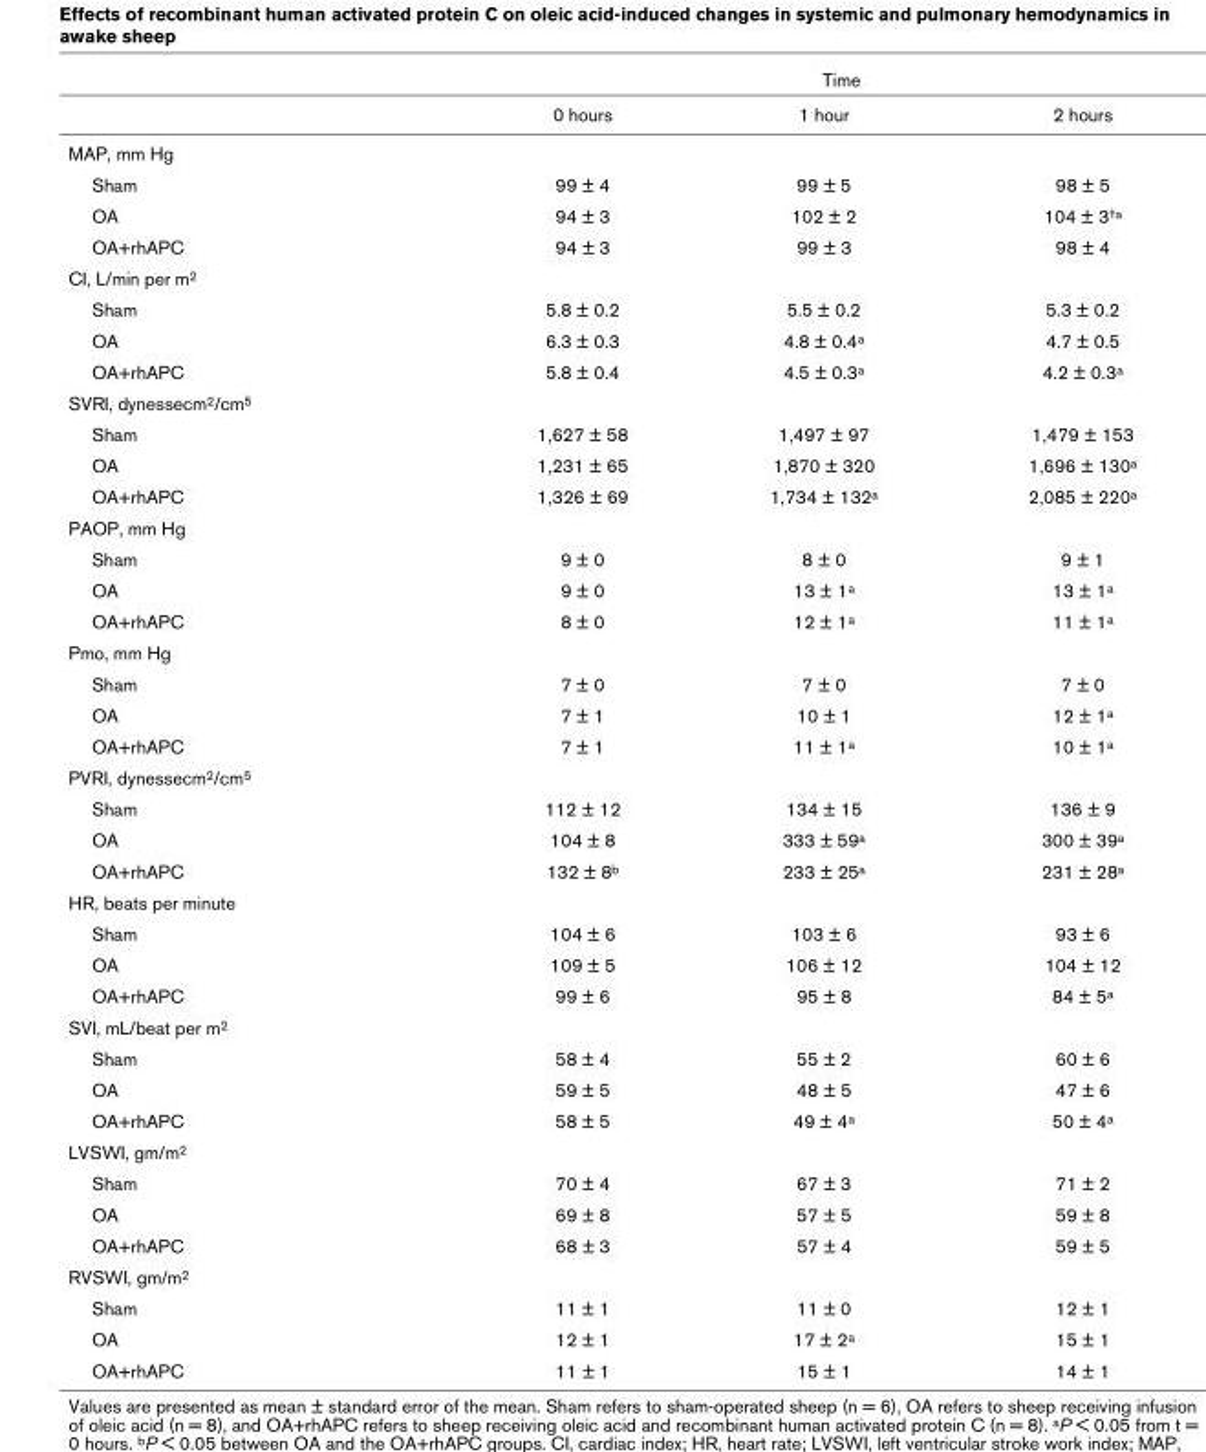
<table><thead><tr><td rowspan="2"></td><td colspan="3">Time</td></tr><tr><td>0 hours</td><td>1 hour</td><td>2 hours</td></tr></thead><tbody><tr><td colspan="4">MAP, mm Hg</td></tr><tr><td>Sham</td><td>99 ± 4</td><td>99 ± 5</td><td>98 ± 5</td></tr><tr><td>OA</td><td>94 ± 3</td><td>102 ± 2</td><td>104 ± 3<sup>†a</sup></td></tr><tr><td>OA+rhAPC</td><td>94 ± 3</td><td>99 ± 3</td><td>98 ± 4</td></tr><tr><td colspan="4">CI, L/min per m<sup>2</sup></td></tr><tr><td>Sham</td><td>5.8 ± 0.2</td><td>5.5 ± 0.2</td><td>5.3 ± 0.2</td></tr><tr><td>OA</td><td>6.3 ± 0.3</td><td>4.8 ± 0.4<sup>a</sup></td><td>4.7 ± 0.5</td></tr><tr><td>OA+rhAPC</td><td>5.8 ± 0.4</td><td>4.5 ± 0.3<sup>a</sup></td><td>4.2 ± 0.3<sup>a</sup></td></tr><tr><td colspan="4">SVRI, dynessecm<sup>2</sup>/cm<sup>5</sup></td></tr><tr><td>Sham</td><td>1,627 ± 58</td><td>1,497 ± 97</td><td>1,479 ± 153</td></tr><tr><td>OA</td><td>1,231 ± 65</td><td>1,870 ± 320</td><td>1,696 ± 130<sup>a</sup></td></tr><tr><td>OA+rhAPC</td><td>1,326 ± 69</td><td>1,734 ± 132<sup>a</sup></td><td>2,085 ± 220<sup>a</sup></td></tr><tr><td colspan="4">PAOP, mm Hg</td></tr><tr><td>Sham</td><td>9 ± 0</td><td>8 ± 0</td><td>9 ± 1</td></tr><tr><td>OA</td><td>9 ± 0</td><td>13 ± 1<sup>a</sup></td><td>13 ± 1<sup>a</sup></td></tr><tr><td>OA+rhAPC</td><td>8 ± 0</td><td>12 ± 1<sup>a</sup></td><td>11 ± 1<sup>a</sup></td></tr><tr><td colspan="4">Pmo, mm Hg</td></tr><tr><td>Sham</td><td>7 ± 0</td><td>7 ± 0</td><td>7 ± 0</td></tr><tr><td>OA</td><td>7 ± 1</td><td>10 ± 1</td><td>12 ± 1<sup>a</sup></td></tr><tr><td>OA+rhAPC</td><td>7 ± 1</td><td>11 ± 1<sup>a</sup></td><td>10 ± 1<sup>a</sup></td></tr><tr><td colspan="4">PVRI, dynessecm<sup>2</sup>/cm<sup>5</sup></td></tr><tr><td>Sham</td><td>112 ± 12</td><td>134 ± 15</td><td>136 ± 9</td></tr><tr><td>OA</td><td>104 ± 8</td><td>333 ± 59<sup>a</sup></td><td>300 ± 39<sup>a</sup></td></tr><tr><td>OA+rhAPC</td><td>132 ± 8<sup>b</sup></td><td>233 ± 25<sup>a</sup></td><td>231 ± 28<sup>a</sup></td></tr><tr><td colspan="4">HR, beats per minute</td></tr><tr><td>Sham</td><td>104 ± 6</td><td>103 ± 6</td><td>93 ± 6</td></tr><tr><td>OA</td><td>109 ± 5</td><td>106 ± 12</td><td>104 ± 12</td></tr><tr><td>OA+rhAPC</td><td>99 ± 6</td><td>95 ± 8</td><td>84 ± 5<sup>a</sup></td></tr><tr><td colspan="4">SVI, mL/beat per m<sup>2</sup></td></tr><tr><td>Sham</td><td>58 ± 4</td><td>55 ± 2</td><td>60 ± 6</td></tr><tr><td>OA</td><td>59 ± 5</td><td>48 ± 5</td><td>47 ± 6</td></tr><tr><td>OA+rhAPC</td><td>58 ± 5</td><td>49 ± 4<sup>a</sup></td><td>50 ± 4<sup>a</sup></td></tr><tr><td colspan="4">LVSWI, gm/m<sup>2</sup></td></tr><tr><td>Sham</td><td>70 ± 4</td><td>67 ± 3</td><td>71 ± 2</td></tr><tr><td>OA</td><td>69 ± 8</td><td>57 ± 5</td><td>59 ± 8</td></tr><tr><td>OA+rhAPC</td><td>68 ± 3</td><td>57 ± 4</td><td>59 ± 5</td></tr><tr><td colspan="4">RVSWI, gm/m<sup>2</sup></td></tr><tr><td>Sham</td><td>11 ± 1</td><td>11 ± 0</td><td>12 ± 1</td></tr><tr><td>OA</td><td>12 ± 1</td><td>17 ± 2<sup>a</sup></td><td>15 ± 1</td></tr><tr><td>OA+rhAPC</td><td>11 ± 1</td><td>15 ± 1</td><td>14 ± 1</td></tr></tbody></table>